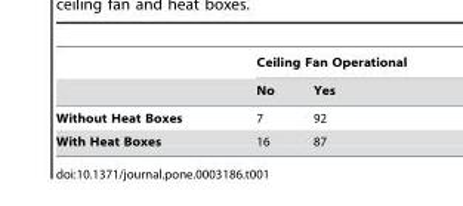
<table><thead><tr><td rowspan="2"></td><td colspan="2">Ceiling Fan Operational</td></tr><tr><td>No</td><td>Yes</td></tr></thead><tbody><tr><td>Without Heat Boxes</td><td>7</td><td>92</td></tr><tr><td>With Heat Boxes</td><td>16</td><td>87</td></tr></tbody></table>